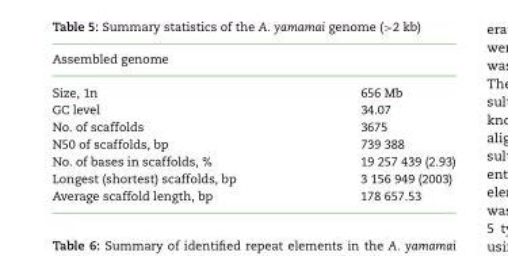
<table><thead><tr><td>Assembled genome</td><td></td></tr></thead><tbody><tr><td>Size, 1n</td><td>656 Mb</td></tr><tr><td>GC level</td><td>34.07</td></tr><tr><td>No. of scaffolds</td><td>3675</td></tr><tr><td>N50 of scaffolds, bp</td><td>739 388</td></tr><tr><td>No. of bases in scaffolds, %</td><td>19 257 439 (2.93)</td></tr><tr><td>Longest (shortest) scaffolds, bp</td><td>3 156 949 (2003)</td></tr><tr><td>Average scaffold length, bp</td><td>178 657.53</td></tr></tbody></table>